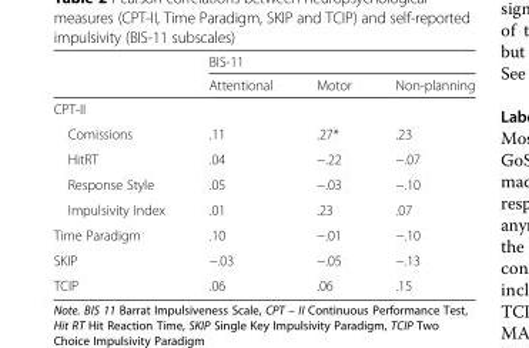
<table><thead><tr><td rowspan="2"></td><td colspan="3">BIS-11</td></tr><tr><td>Attentional</td><td>Motor</td><td>Non-planning</td></tr></thead><tbody><tr><td colspan="4">CPT-II</td></tr><tr><td>Comissions</td><td>.11</td><td>.27*</td><td>.23</td></tr><tr><td>HitRT</td><td>.04</td><td>−.22</td><td>−.07</td></tr><tr><td>Response Style</td><td>.05</td><td>−.03</td><td>−.10</td></tr><tr><td>Impulsivity Index</td><td>.01</td><td>.23</td><td>.07</td></tr><tr><td>Time Paradigm</td><td>.10</td><td>−.01</td><td>−.10</td></tr><tr><td>SKIP</td><td>−.03</td><td>−.05</td><td>−.13</td></tr><tr><td>TCIP</td><td>.06</td><td>.06</td><td>.15</td></tr></tbody></table>